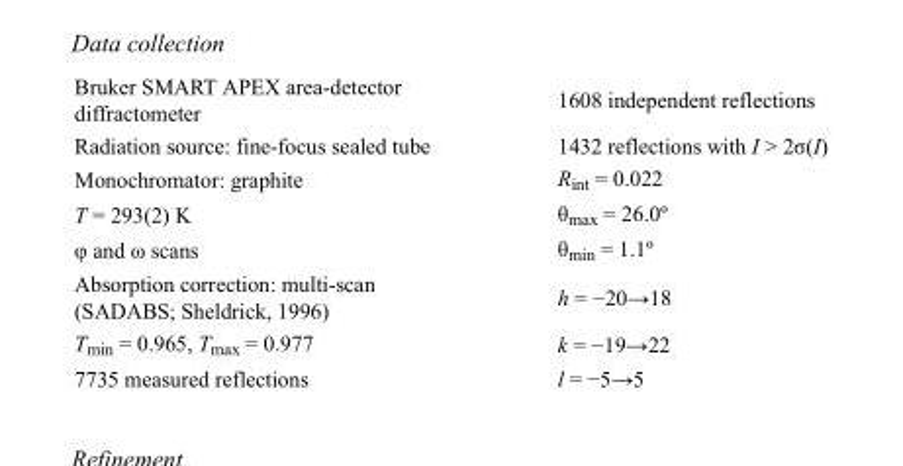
<table><tbody><tr><td>Bruker SMART APEX area-detector diffractometer</td><td>1608 independent reflections</td></tr><tr><td>Radiation source: fine-focus sealed tube</td><td>1432 reflections with I &gt; 2σ(I)</td></tr><tr><td>Monochromator: graphite</td><td>R<sub>int</sub> = 0.022</td></tr><tr><td>T = 293(2) K</td><td>θ<sub>max</sub> = 26.0º</td></tr><tr><td>φ and ω scans</td><td>θ<sub>min</sub> = 1.1º</td></tr><tr><td>Absorption correction: multi-scan (SADABS; Sheldrick, 1996)</td><td>h = −20→18</td></tr><tr><td>T<sub>min</sub> = 0.965, T<sub>max</sub> = 0.977</td><td>k = −19→22</td></tr><tr><td>7735 measured reflections</td><td>l = −5→5</td></tr></tbody></table>